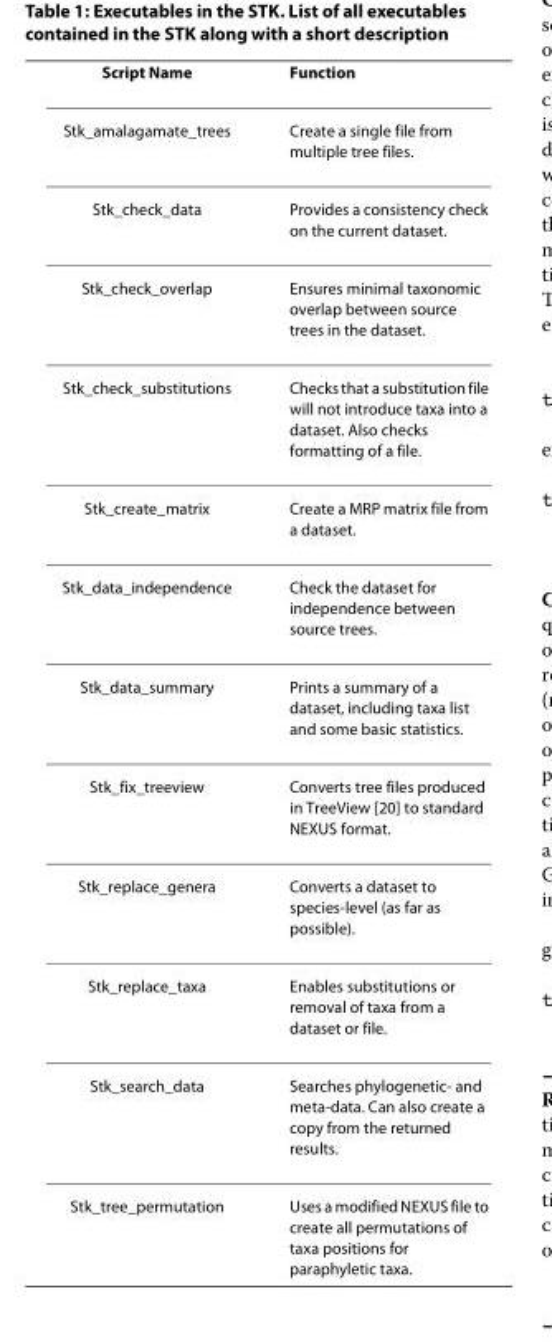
<table><thead><tr><td>Script Name</td><td>Function</td></tr></thead><tbody><tr><td>Stk_amalagamate_trees</td><td>Create a single file from multiple tree files.</td></tr><tr><td>Stk_check_data</td><td>Provides a consistency check on the current dataset.</td></tr><tr><td>Stk_check_overlap</td><td>Ensures minimal taxonomic overlap between source trees in the dataset.</td></tr><tr><td>Stk_check_substitutions</td><td>Checks that a substitution file will not introduce taxa into a dataset. Also checks formatting of a file.</td></tr><tr><td>Stk_create_matrix</td><td>Create a MRP matrix file from a dataset.</td></tr><tr><td>Stk_data_independence</td><td>Check the dataset for independence between source trees.</td></tr><tr><td>Stk_data_summary</td><td>Prints a summary of a dataset, including taxa list and some basic statistics.</td></tr><tr><td>Stk_fix_treeview</td><td>Converts tree files produced in TreeView [20] to standard NEXUS format.</td></tr><tr><td>Stk_replace_genera</td><td>Converts a dataset to species-level (as far as possible).</td></tr><tr><td>Stk_replace_taxa</td><td>Enables substitutions or removal of taxa from a dataset or file.</td></tr><tr><td>Stk_search_data</td><td>Searches phylogenetic- and meta-data. Can also create a copy from the returned results.</td></tr><tr><td>Stk_tree_permutation</td><td>Uses a modified NEXUS file to create all permutations of taxa positions for paraphyletic taxa.</td></tr></tbody></table>